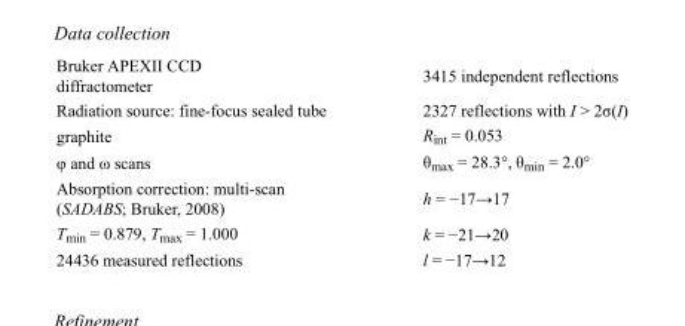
<table><tbody><tr><td>Bruker APEXII CCD diffractometer</td><td>3415 independent reflections</td></tr><tr><td>Radiation source: fine-focus sealed tube</td><td>2327 reflections with I &gt; 2σ(I)</td></tr><tr><td>graphite</td><td>R<sub>int</sub> = 0.053</td></tr><tr><td>φ and ω scans</td><td>θ<sub>max</sub> = 28.3°, θ<sub>min</sub> = 2.0°</td></tr><tr><td>Absorption correction: multi-scan (SADABS; Bruker, 2008)</td><td>h = −17→17</td></tr><tr><td>T<sub>min</sub> = 0.879, T<sub>max</sub> = 1.000</td><td>k = −21→20</td></tr><tr><td>24436 measured reflections</td><td>l = −17→12</td></tr></tbody></table>